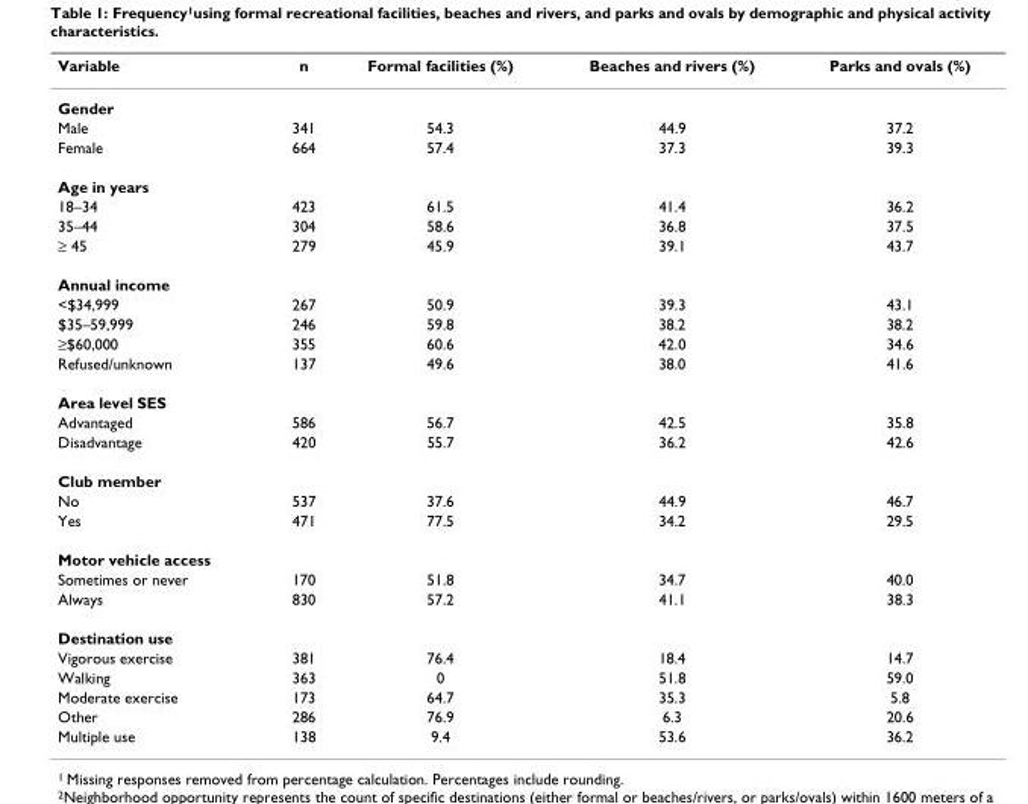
<table><thead><tr><td>Variable</td><td>n</td><td>Formal facilities (%)</td><td>Beaches and rivers (%)</td><td>Parks and ovals (%)</td></tr></thead><tbody><tr><td colspan="5">Gender</td></tr><tr><td>Male</td><td>341</td><td>54.3</td><td>44.9</td><td>37.2</td></tr><tr><td>Female</td><td>664</td><td>57.4</td><td>37.3</td><td>39.3</td></tr><tr><td colspan="5">Age in years</td></tr><tr><td>18–34</td><td>423</td><td>61.5</td><td>41.4</td><td>36.2</td></tr><tr><td>35–44</td><td>304</td><td>58.6</td><td>36.8</td><td>37.5</td></tr><tr><td>≥ 45</td><td>279</td><td>45.9</td><td>39.1</td><td>43.7</td></tr><tr><td colspan="5">Annual income</td></tr><tr><td>&lt;$34,999</td><td>267</td><td>50.9</td><td>39.3</td><td>43.1</td></tr><tr><td>$35–59,999</td><td>246</td><td>59.8</td><td>38.2</td><td>38.2</td></tr><tr><td>≥$60,000</td><td>355</td><td>60.6</td><td>42.0</td><td>34.6</td></tr><tr><td>Refused/unknown</td><td>137</td><td>49.6</td><td>38.0</td><td>41.6</td></tr><tr><td colspan="5">Area level SES</td></tr><tr><td>Advantaged</td><td>586</td><td>56.7</td><td>42.5</td><td>35.8</td></tr><tr><td>Disadvantage</td><td>420</td><td>55.7</td><td>36.2</td><td>42.6</td></tr><tr><td colspan="5">Club member</td></tr><tr><td>No</td><td>537</td><td>37.6</td><td>44.9</td><td>46.7</td></tr><tr><td>Yes</td><td>471</td><td>77.5</td><td>34.2</td><td>29.5</td></tr><tr><td colspan="5">Motor vehicle access</td></tr><tr><td>Sometimes or never</td><td>170</td><td>51.8</td><td>34.7</td><td>40.0</td></tr><tr><td>Always</td><td>830</td><td>57.2</td><td>41.1</td><td>38.3</td></tr><tr><td colspan="5">Destination use</td></tr><tr><td>Vigorous exercise</td><td>381</td><td>76.4</td><td>18.4</td><td>14.7</td></tr><tr><td>Walking</td><td>363</td><td>0</td><td>51.8</td><td>59.0</td></tr><tr><td>Moderate exercise</td><td>173</td><td>64.7</td><td>35.3</td><td>5.8</td></tr><tr><td>Other</td><td>286</td><td>76.9</td><td>6.3</td><td>20.6</td></tr><tr><td>Multiple use</td><td>138</td><td>9.4</td><td>53.6</td><td>36.2</td></tr></tbody></table>